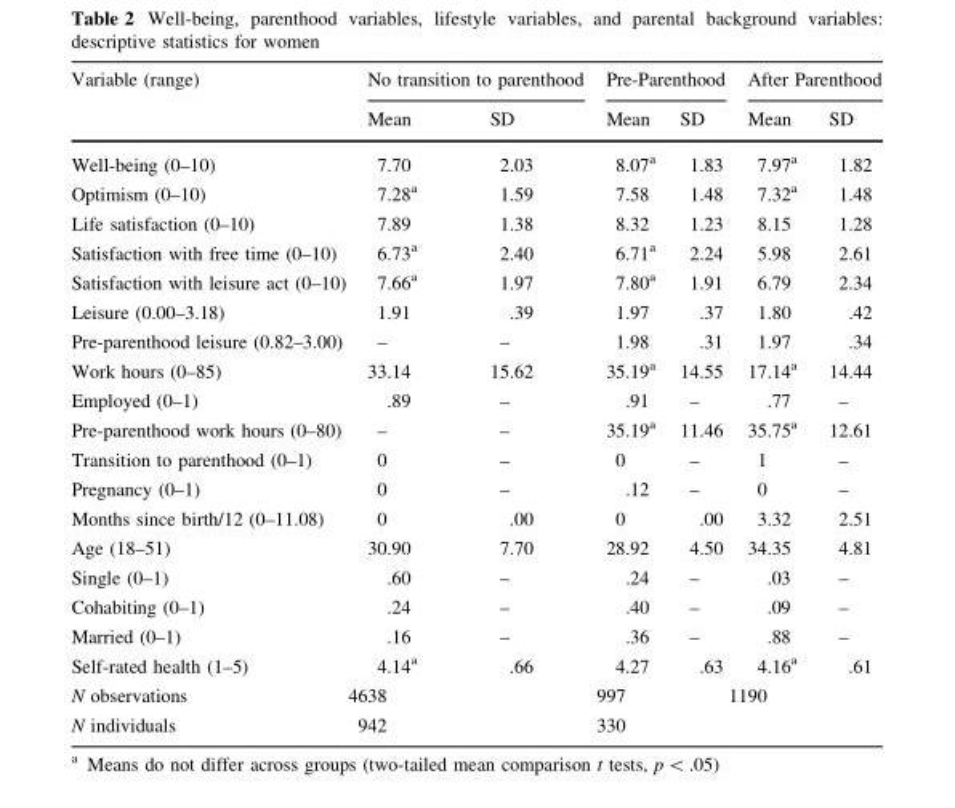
<table><thead><tr><td rowspan="2">Variable (range)</td><td colspan="2">No transition to parenthood</td><td colspan="2">Pre-Parenthood</td><td colspan="2">After Parenthood</td></tr><tr><td>Mean</td><td>SD</td><td>Mean</td><td>SD</td><td>Mean</td><td>SD</td></tr></thead><tbody><tr><td>Well-being (0–10)</td><td>7.70</td><td>2.03</td><td>8.07<sup>a</sup></td><td>1.83</td><td>7.97<sup>a</sup></td><td>1.82</td></tr><tr><td>Optimism (0–10)</td><td>7.28<sup>a</sup></td><td>1.59</td><td>7.58</td><td>1.48</td><td>7.32<sup>a</sup></td><td>1.48</td></tr><tr><td>Life satisfaction (0–10)</td><td>7.89</td><td>1.38</td><td>8.32</td><td>1.23</td><td>8.15</td><td>1.28</td></tr><tr><td>Satisfaction with free time (0–10)</td><td>6.73<sup>a</sup></td><td>2.40</td><td>6.71<sup>a</sup></td><td>2.24</td><td>5.98</td><td>2.61</td></tr><tr><td>Satisfaction with leisure act (0–10)</td><td>7.66<sup>a</sup></td><td>1.97</td><td>7.80<sup>a</sup></td><td>1.91</td><td>6.79</td><td>2.34</td></tr><tr><td>Leisure (0.00–3.18)</td><td>1.91</td><td>.39</td><td>1.97</td><td>.37</td><td>1.80</td><td>.42</td></tr><tr><td>Pre-parenthood leisure (0.82–3.00)</td><td>–</td><td>–</td><td>1.98</td><td>.31</td><td>1.97</td><td>.34</td></tr><tr><td>Work hours (0–85)</td><td>33.14</td><td>15.62</td><td>35.19<sup>a</sup></td><td>14.55</td><td>17.14<sup>a</sup></td><td>14.44</td></tr><tr><td>Employed (0–1)</td><td>.89</td><td>–</td><td>.91</td><td>–</td><td>.77</td><td>–</td></tr><tr><td>Pre-parenthood work hours (0–80)</td><td>–</td><td>–</td><td>35.19<sup>a</sup></td><td>11.46</td><td>35.75<sup>a</sup></td><td>12.61</td></tr><tr><td>Transition to parenthood (0–1)</td><td>0</td><td>–</td><td>0</td><td>–</td><td>1</td><td>–</td></tr><tr><td>Pregnancy (0–1)</td><td>0</td><td>–</td><td>.12</td><td>–</td><td>0</td><td>–</td></tr><tr><td>Months since birth/12 (0–11.08)</td><td>0</td><td>.00</td><td>0</td><td>.00</td><td>3.32</td><td>2.51</td></tr><tr><td>Age (18–51)</td><td>30.90</td><td>7.70</td><td>28.92</td><td>4.50</td><td>34.35</td><td>4.81</td></tr><tr><td>Single (0–1)</td><td>.60</td><td>–</td><td>.24</td><td>–</td><td>.03</td><td>–</td></tr><tr><td>Cohabiting (0–1)</td><td>.24</td><td>–</td><td>.40</td><td>–</td><td>.09</td><td>–</td></tr><tr><td>Married (0–1)</td><td>.16</td><td>–</td><td>.36</td><td>–</td><td>.88</td><td>–</td></tr><tr><td>Self-rated health (1–5)</td><td>4.14<sup>a</sup></td><td>.66</td><td>4.27</td><td>.63</td><td>4.16<sup>a</sup></td><td>.61</td></tr><tr><td>N observations</td><td colspan="2">4638</td><td colspan="2">997</td><td colspan="2">1190</td></tr><tr><td>N individuals</td><td colspan="2">942</td><td colspan="4">330</td></tr></tbody></table>